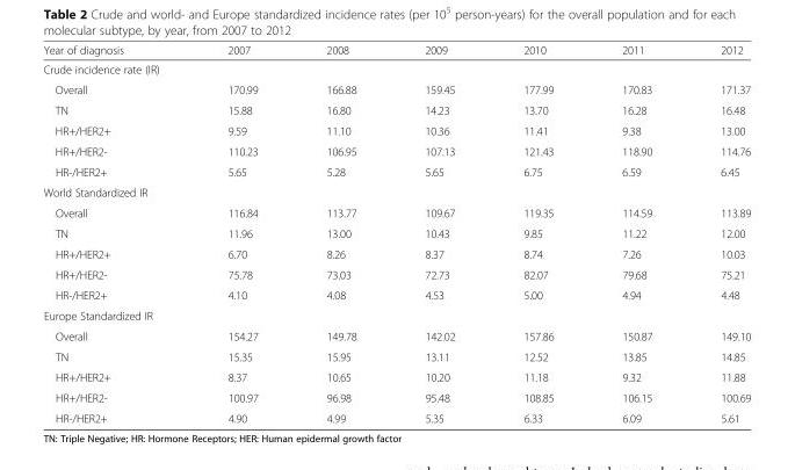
<table><thead><tr><td>Year of diagnosis</td><td>2007</td><td>2008</td><td>2009</td><td>2010</td><td>2011</td><td>2012</td></tr></thead><tbody><tr><td colspan="7">Crude incidence rate (IR)</td></tr><tr><td>Overall</td><td>170.99</td><td>166.88</td><td>159.45</td><td>177.99</td><td>170.83</td><td>171.37</td></tr><tr><td>TN</td><td>15.88</td><td>16.80</td><td>14.23</td><td>13.70</td><td>16.28</td><td>16.48</td></tr><tr><td>HR+/HER2+</td><td>9.59</td><td>11.10</td><td>10.36</td><td>11.41</td><td>9.38</td><td>13.00</td></tr><tr><td>HR+/HER2-</td><td>110.23</td><td>106.95</td><td>107.13</td><td>121.43</td><td>118.90</td><td>114.76</td></tr><tr><td>HR-/HER2+</td><td>5.65</td><td>5.28</td><td>5.65</td><td>6.75</td><td>6.59</td><td>6.45</td></tr><tr><td colspan="7">World Standardized IR</td></tr><tr><td>Overall</td><td>116.84</td><td>113.77</td><td>109.67</td><td>119.35</td><td>114.59</td><td>113.89</td></tr><tr><td>TN</td><td>11.96</td><td>13.00</td><td>10.43</td><td>9.85</td><td>11.22</td><td>12.00</td></tr><tr><td>HR+/HER2+</td><td>6.70</td><td>8.26</td><td>8.37</td><td>8.74</td><td>7.26</td><td>10.03</td></tr><tr><td>HR+/HER2-</td><td>75.78</td><td>73.03</td><td>72.73</td><td>82.07</td><td>79.68</td><td>75.21</td></tr><tr><td>HR-/HER2+</td><td>4.10</td><td>4.08</td><td>4.53</td><td>5.00</td><td>4.94</td><td>4.48</td></tr><tr><td colspan="7">Europe Standardized IR</td></tr><tr><td>Overall</td><td>154.27</td><td>149.78</td><td>142.02</td><td>157.86</td><td>150.87</td><td>149.10</td></tr><tr><td>TN</td><td>15.35</td><td>15.95</td><td>13.11</td><td>12.52</td><td>13.85</td><td>14.85</td></tr><tr><td>HR+/HER2+</td><td>8.37</td><td>10.65</td><td>10.20</td><td>11.18</td><td>9.32</td><td>11.88</td></tr><tr><td>HR+/HER2-</td><td>100.97</td><td>96.98</td><td>95.48</td><td>108.85</td><td>106.15</td><td>100.69</td></tr><tr><td>HR-/HER2+</td><td>4.90</td><td>4.99</td><td>5.35</td><td>6.33</td><td>6.09</td><td>5.61</td></tr></tbody></table>